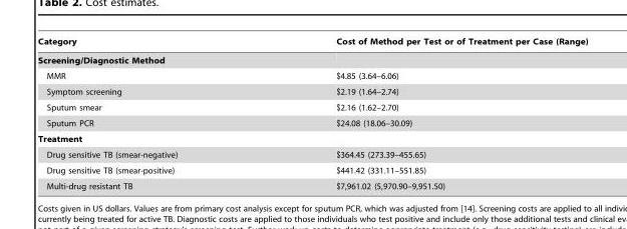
<table><thead><tr><td>Category</td><td>Cost of Method per Test or of Treatment per Case (Range)</td></tr></thead><tbody><tr><td colspan="2">Screening/Diagnostic Method</td></tr><tr><td>MMR</td><td>$4.85 (3.64–6.06)</td></tr><tr><td>Symptom screening</td><td>$2.19 (1.64–2.74)</td></tr><tr><td>Sputum smear</td><td>$2.16 (1.62–2.70)</td></tr><tr><td>Sputum PCR</td><td>$24.08 (18.06–30.09)</td></tr><tr><td colspan="2">Treatment</td></tr><tr><td>Drug sensitive TB (smear-negative)</td><td>$364.45 (273.39–455.65)</td></tr><tr><td>Drug sensitive TB (smear-positive)</td><td>$441.42 (331.11–551.85)</td></tr><tr><td>Multi-drug resistant TB</td><td>$7,961.02 (5,970.90–9,951.50)</td></tr></tbody></table>